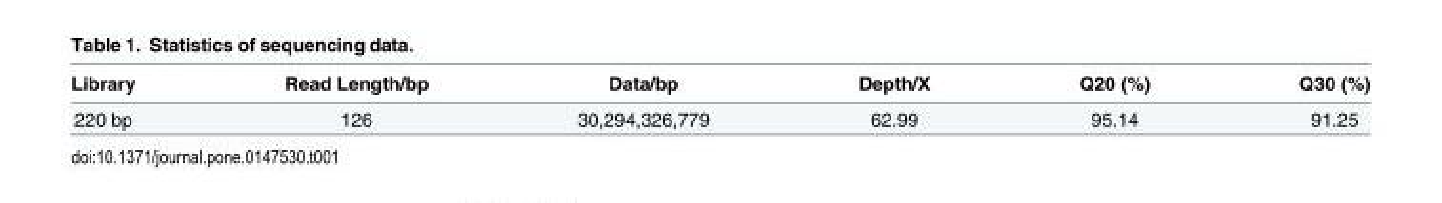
<table><thead><tr><td>Library</td><td>Read Length/bp</td><td>Data/bp</td><td>Depth/X</td><td>Q20 (%)</td><td>Q30 (%)</td></tr></thead><tbody><tr><td>220 bp</td><td>126</td><td>30,294,326,779</td><td>62.99</td><td>95.14</td><td>91.25</td></tr></tbody></table>